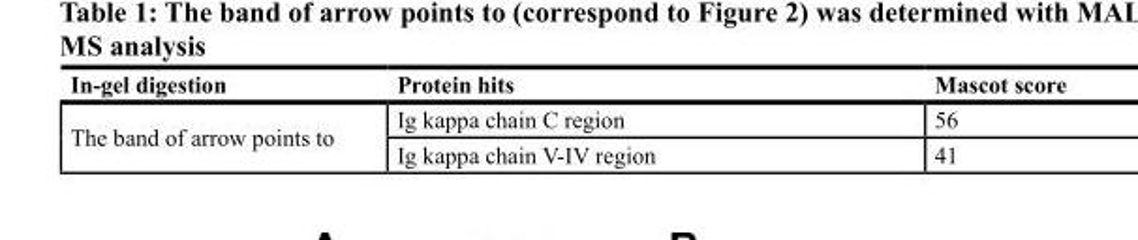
<table><thead><tr><td>In-gel digestion</td><td>Protein hits</td><td>Mascot score</td></tr></thead><tbody><tr><td rowspan="2">The band of arrow points to</td><td>Ig kappa chain C region</td><td>56</td></tr><tr><td>Ig kappa chain V-IV region</td><td>41</td></tr></tbody></table>